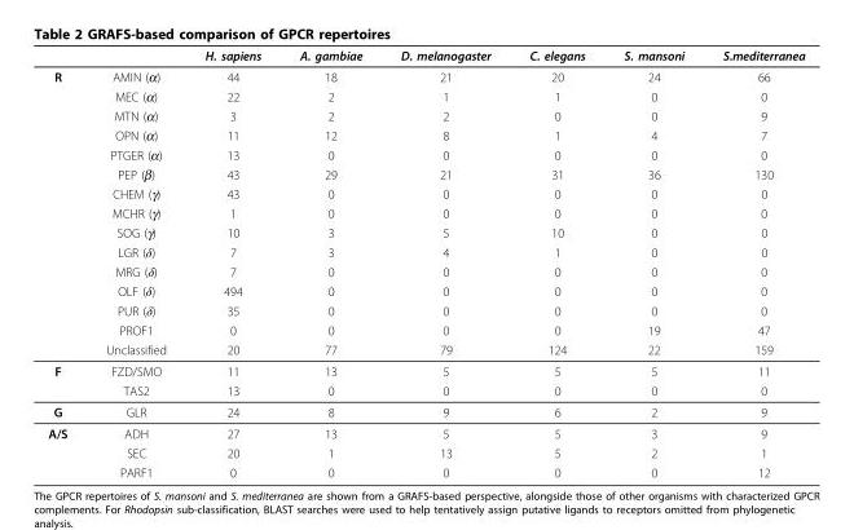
<table><thead><tr><td></td><td></td><td>H. sapiens</td><td>A. gambiae</td><td>D. melanogaster</td><td>C. elegans</td><td>S. mansoni</td><td>S.mediterranea</td></tr></thead><tbody><tr><td rowspan="15">R</td><td>AMIN (α)</td><td>44</td><td>18</td><td>21</td><td>20</td><td>24</td><td>66</td></tr><tr><td>MEC (α)</td><td>22</td><td>2</td><td>1</td><td>1</td><td>0</td><td>0</td></tr><tr><td>MTN (α)</td><td>3</td><td>2</td><td>2</td><td>0</td><td>0</td><td>9</td></tr><tr><td>OPN (α)</td><td>11</td><td>12</td><td>8</td><td>1</td><td>4</td><td>7</td></tr><tr><td>PTGER (α)</td><td>13</td><td>0</td><td>0</td><td>0</td><td>0</td><td>0</td></tr><tr><td>PEP (β)</td><td>43</td><td>29</td><td>21</td><td>31</td><td>36</td><td>130</td></tr><tr><td>CHEM (γ)</td><td>43</td><td>0</td><td>0</td><td>0</td><td>0</td><td>0</td></tr><tr><td>MCHR (γ)</td><td>1</td><td>0</td><td>0</td><td>0</td><td>0</td><td>0</td></tr><tr><td>SOG (γ)</td><td>10</td><td>3</td><td>5</td><td>10</td><td>0</td><td>0</td></tr><tr><td>LGR (δ)</td><td>7</td><td>3</td><td>4</td><td>1</td><td>0</td><td>0</td></tr><tr><td>MRG (δ)</td><td>7</td><td>0</td><td>0</td><td>0</td><td>0</td><td>0</td></tr><tr><td>OLF (δ)</td><td>494</td><td>0</td><td>0</td><td>0</td><td>0</td><td>0</td></tr><tr><td>PUR (δ)</td><td>35</td><td>0</td><td>0</td><td>0</td><td>0</td><td>0</td></tr><tr><td>PROF1</td><td>0</td><td>0</td><td>0</td><td>0</td><td>19</td><td>47</td></tr><tr><td>Unclassified</td><td>20</td><td>77</td><td>79</td><td>124</td><td>22</td><td>159</td></tr><tr><td rowspan="2">F</td><td>FZD/SMO</td><td>11</td><td>13</td><td>5</td><td>5</td><td>5</td><td>11</td></tr><tr><td>TAS2</td><td>13</td><td>0</td><td>0</td><td>0</td><td>0</td><td>0</td></tr><tr><td>G</td><td>GLR</td><td>24</td><td>8</td><td>9</td><td>6</td><td>2</td><td>9</td></tr><tr><td rowspan="3">A/S</td><td>ADH</td><td>27</td><td>13</td><td>5</td><td>5</td><td>3</td><td>9</td></tr><tr><td>SEC</td><td>20</td><td>1</td><td>13</td><td>5</td><td>2</td><td>1</td></tr><tr><td>PARF1</td><td>0</td><td>0</td><td>0</td><td>0</td><td>0</td><td>12</td></tr></tbody></table>